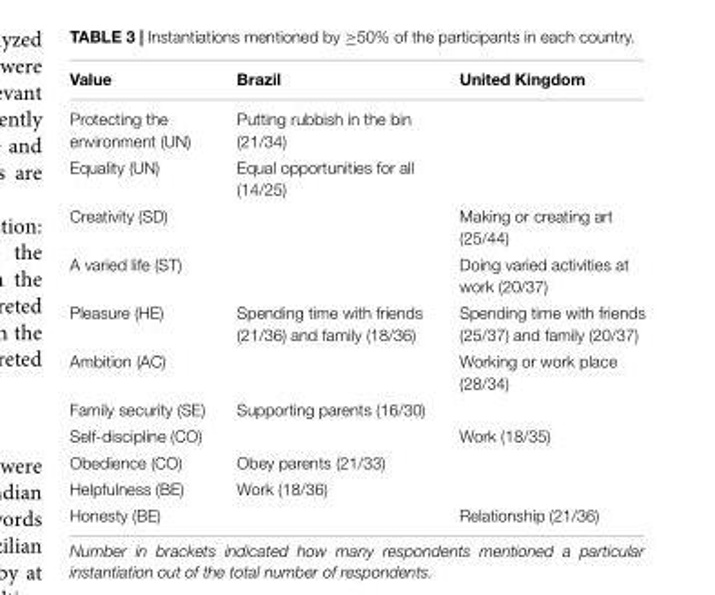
<table><thead><tr><td>Value</td><td>Brazil</td><td>United Kingdom</td></tr></thead><tbody><tr><td>Protecting the environment (UN)</td><td>Putting rubbish in the bin (21/34)</td><td></td></tr><tr><td>Equality (UN)</td><td>Equal opportunities for all (14/25)</td><td></td></tr><tr><td>Creativity (SD)</td><td></td><td>Making or creating art (25/44)</td></tr><tr><td>A varied life (ST)</td><td></td><td>Doing varied activities at work (20/37)</td></tr><tr><td>Pleasure (HE)</td><td>Spending time with friends (21/36) and family (18/36)</td><td>Spending time with friends (25/37) and family (20/37)</td></tr><tr><td>Ambition (AC)</td><td></td><td>Working or work place (28/34)</td></tr><tr><td>Family security (SE)</td><td>Supporting parents (16/30)</td><td></td></tr><tr><td>Self-discipline (CO)</td><td></td><td>Work (18/35)</td></tr><tr><td>Obedience (CO)</td><td>Obey parents (21/33)</td><td></td></tr><tr><td>Helpfulness (BE)</td><td>Work (18/36)</td><td></td></tr><tr><td>Honesty (BE)</td><td></td><td>Relationship (21/36)</td></tr></tbody></table>